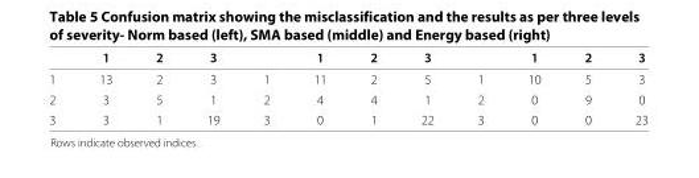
<table><thead><tr><td></td><td>1</td><td>2</td><td>3</td><td></td><td>1</td><td>2</td><td>3</td><td></td><td>1</td><td>2</td><td>3</td></tr></thead><tbody><tr><td>1</td><td>13</td><td>2</td><td>3</td><td>1</td><td>11</td><td>2</td><td>5</td><td>1</td><td>10</td><td>5</td><td>3</td></tr><tr><td>2</td><td>3</td><td>5</td><td>1</td><td>2</td><td>4</td><td>4</td><td>1</td><td>2</td><td>0</td><td>9</td><td>0</td></tr><tr><td>3</td><td>3</td><td>1</td><td>19</td><td>3</td><td>0</td><td>1</td><td>22</td><td>3</td><td>0</td><td>0</td><td>23</td></tr></tbody></table>